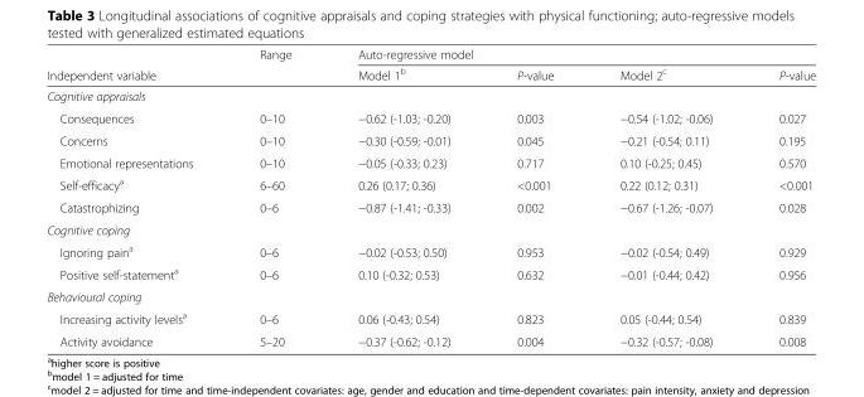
<table><thead><tr><td rowspan="2">Independent variable</td><td rowspan="2">Range</td><td colspan="4">Auto-regressive model</td></tr><tr><td>Model 1<sup>b</sup></td><td>P-value</td><td>Model 2<sup>c</sup></td><td>P-value</td></tr></thead><tbody><tr><td colspan="6">Cognitive appraisals</td></tr><tr><td>Consequences</td><td>0–10</td><td>−0.62 (-1.03; -0.20)</td><td>0.003</td><td>−0.54 (-1.02; -0.06)</td><td>0.027</td></tr><tr><td>Concerns</td><td>0–10</td><td>−0.30 (-0.59; -0.01)</td><td>0.045</td><td>−0.21 (-0.54; 0.11)</td><td>0.195</td></tr><tr><td>Emotional representations</td><td>0–10</td><td>−0.05 (-0.33; 0.23)</td><td>0.717</td><td>0.10 (-0.25; 0.45)</td><td>0.570</td></tr><tr><td>Self-efficacy<sup>a</sup></td><td>6–60</td><td>0.26 (0.17; 0.36)</td><td>&lt;0.001</td><td>0.22 (0.12; 0.31)</td><td>&lt;0.001</td></tr><tr><td>Catastrophizing</td><td>0–6</td><td>−0.87 (-1.41; -0.33)</td><td>0.002</td><td>−0.67 (-1.26; -0.07)</td><td>0.028</td></tr><tr><td colspan="6">Cognitive coping</td></tr><tr><td>Ignoring pain<sup>a</sup></td><td>0–6</td><td>−0.02 (-0.53; 0.50)</td><td>0.953</td><td>−0.02 (-0.54; 0.49)</td><td>0.929</td></tr><tr><td>Positive self-statement<sup>a</sup></td><td>0–6</td><td>0.10 (-0.32; 0.53)</td><td>0.632</td><td>−0.01 (-0.44; 0.42)</td><td>0.956</td></tr><tr><td colspan="6">Behavioural coping</td></tr><tr><td>Increasing activity levels<sup>a</sup></td><td>0–6</td><td>0.06 (-0.43; 0.54)</td><td>0.823</td><td>0.05 (-0.44; 0.54)</td><td>0.839</td></tr><tr><td>Activity avoidance</td><td>5–20</td><td>−0.37 (-0.62; -0.12)</td><td>0.004</td><td>−0.32 (-0.57; -0.08)</td><td>0.008</td></tr></tbody></table>